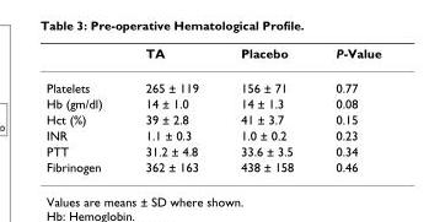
<table><thead><tr><td></td><td>TA</td><td>Placebo</td><td>P-Value</td></tr></thead><tbody><tr><td>Platelets</td><td>265 ± 119</td><td>156 ± 71</td><td>0.77</td></tr><tr><td>Hb (gm/dl)</td><td>14 ± 1.0</td><td>14 ± 1.3</td><td>0.08</td></tr><tr><td>Hct (%)</td><td>39 ± 2.8</td><td>41 ± 3.7</td><td>0.15</td></tr><tr><td>INR</td><td>1.1 ± 0.3</td><td>1.0 ± 0.2</td><td>0.23</td></tr><tr><td>PTT</td><td>31.2 ± 4.8</td><td>33.6 ± 3.5</td><td>0.34</td></tr><tr><td>Fibrinogen</td><td>362 ± 163</td><td>438 ± 158</td><td>0.46</td></tr></tbody></table>